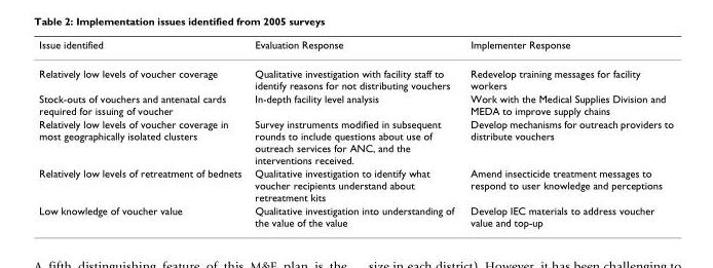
<table><thead><tr><td>Issue identified</td><td>Evaluation Response</td><td>Implementer Response</td></tr></thead><tbody><tr><td>Relatively low levels of voucher coverage</td><td>Qualitative investigation with facility staff to identify reasons for not distributing vouchers</td><td>Redevelop training messages for facility workers</td></tr><tr><td>Stock-outs of vouchers and antenatal cards required for issuing of voucher</td><td>In-depth facility level analysis</td><td>Work with the Medical Supplies Division and MEDA to improve supply chains</td></tr><tr><td>Relatively low levels of voucher coverage in most geographically isolated clusters</td><td>Survey instruments modified in subsequent rounds to include questions about use of outreach services for ANC, and the interventions received.</td><td>Develop mechanisms for outreach providers to distribute vouchers</td></tr><tr><td>Relatively low levels of retreatment of bednets</td><td>Qualitative investigation to identify what voucher recipients understand about retreatment kits</td><td>Amend insecticide treatment messages to respond to user knowledge and perceptions</td></tr><tr><td>Low knowledge of voucher value</td><td>Qualitative investigation into understanding of the value of the value</td><td>Develop IEC materials to address voucher value and top-up</td></tr></tbody></table>